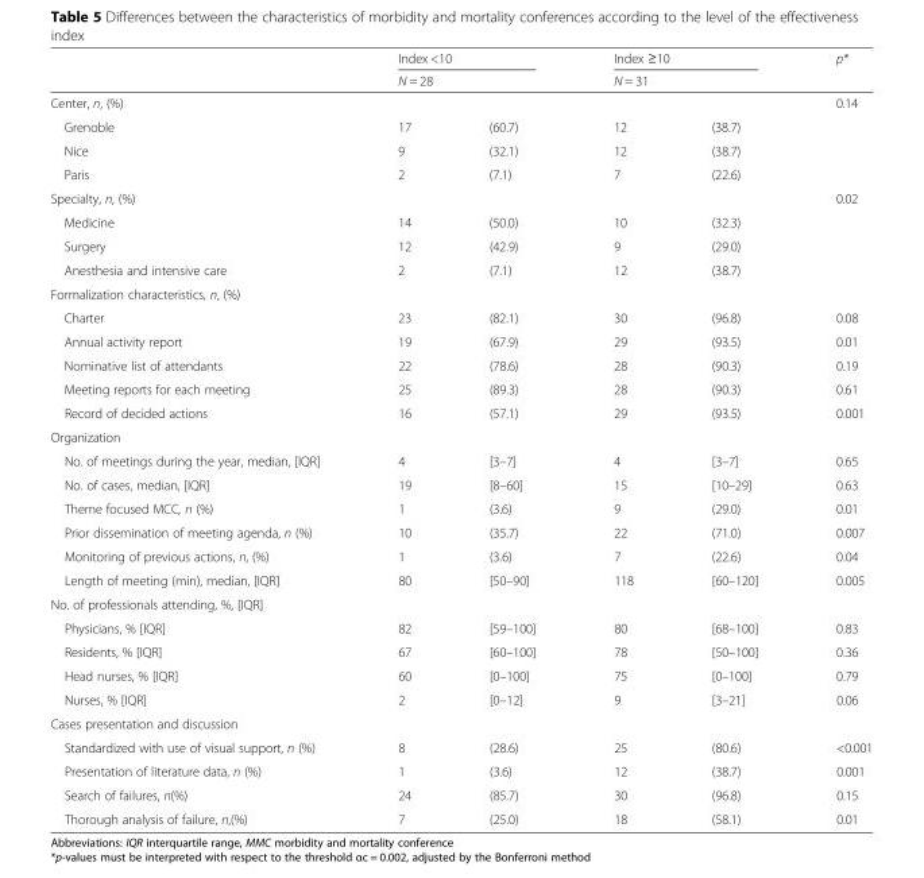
<table><thead><tr><td rowspan="3">Center, n, (%)</td><td rowspan="2" colspan="2">Index &lt;10 N = 28</td><td rowspan="2" colspan="2">Index ≥10 N = 31</td><td rowspan="3">p* 0.14</td></tr><tr></tr><tr><td></td><td></td><td></td><td></td></tr></thead><tbody><tr><td>Grenoble</td><td>17</td><td>(60.7)</td><td>12</td><td>(38.7)</td><td></td></tr><tr><td>Nice</td><td>9</td><td>(32.1)</td><td>12</td><td>(38.7)</td><td></td></tr><tr><td>Paris</td><td>2</td><td>(7.1)</td><td>7</td><td>(22.6)</td><td></td></tr><tr><td>Specialty, n, (%)</td><td></td><td></td><td></td><td></td><td>0.02</td></tr><tr><td>Medicine</td><td>14</td><td>(50.0)</td><td>10</td><td>(32.3)</td><td></td></tr><tr><td>Surgery</td><td>12</td><td>(42.9)</td><td>9</td><td>(29.0)</td><td></td></tr><tr><td>Anesthesia and intensive care</td><td>2</td><td>(7.1)</td><td>12</td><td>(38.7)</td><td></td></tr><tr><td colspan="6">Formalization characteristics, n, (%)</td></tr><tr><td>Charter</td><td>23</td><td>(82.1)</td><td>30</td><td>(96.8)</td><td>0.08</td></tr><tr><td>Annual activity report</td><td>19</td><td>(67.9)</td><td>29</td><td>(93.5)</td><td>0.01</td></tr><tr><td>Nominative list of attendants</td><td>22</td><td>(78.6)</td><td>28</td><td>(90.3)</td><td>0.19</td></tr><tr><td>Meeting reports for each meeting</td><td>25</td><td>(89.3)</td><td>28</td><td>(90.3)</td><td>0.61</td></tr><tr><td>Record of decided actions</td><td>16</td><td>(57.1)</td><td>29</td><td>(93.5)</td><td>0.001</td></tr><tr><td colspan="6">Organization</td></tr><tr><td>No. of meetings during the year, median, [IQR]</td><td>4</td><td>[3–7]</td><td>4</td><td>[3–7]</td><td>0.65</td></tr><tr><td>No. of cases, median, [IQR]</td><td>19</td><td>[8–60]</td><td>15</td><td>[10–29]</td><td>0.63</td></tr><tr><td>Theme focused MCC, n (%)</td><td>1</td><td>(3.6)</td><td>9</td><td>(29.0)</td><td>0.01</td></tr><tr><td>Prior dissemination of meeting agenda, n (%)</td><td>10</td><td>(35.7)</td><td>22</td><td>(71.0)</td><td>0.007</td></tr><tr><td>Monitoring of previous actions, n, (%)</td><td>1</td><td>(3.6)</td><td>7</td><td>(22.6)</td><td>0.04</td></tr><tr><td>Length of meeting (min), median, [IQR]</td><td>80</td><td>[50–90]</td><td>118</td><td>[60–120]</td><td>0.005</td></tr><tr><td colspan="6">No. of professionals attending, %, [IQR]</td></tr><tr><td>Physicians, % [IQR]</td><td>82</td><td>[59–100]</td><td>80</td><td>[68–100]</td><td>0.83</td></tr><tr><td>Residents, % [IQR]</td><td>67</td><td>[60–100]</td><td>78</td><td>[50–100]</td><td>0.36</td></tr><tr><td>Head nurses, % [IQR]</td><td>60</td><td>[0–100]</td><td>75</td><td>[0–100]</td><td>0.79</td></tr><tr><td>Nurses, % [IQR]</td><td>2</td><td>[0–12]</td><td>9</td><td>[3–21]</td><td>0.06</td></tr><tr><td colspan="6">Cases presentation and discussion</td></tr><tr><td>Standardized with use of visual support, n (%)</td><td>8</td><td>(28.6)</td><td>25</td><td>(80.6)</td><td>&lt;0.001</td></tr><tr><td>Presentation of literature data, n (%)</td><td>1</td><td>(3.6)</td><td>12</td><td>(38.7)</td><td>0.001</td></tr><tr><td>Search of failures, n(%)</td><td>24</td><td>(85.7)</td><td>30</td><td>(96.8)</td><td>0.15</td></tr><tr><td>Thorough analysis of failure, n,(%)</td><td>7</td><td>(25.0)</td><td>18</td><td>(58.1)</td><td>0.01</td></tr></tbody></table>